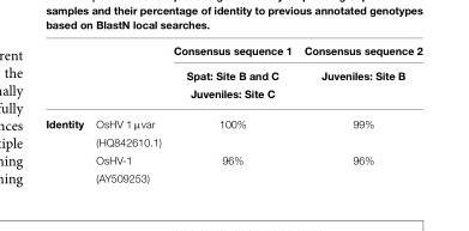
<table><thead><tr><td rowspan="3"></td><td rowspan="3"></td><td rowspan="3">Consensus sequence 1 Spat: Site B and C Juveniles: Site C</td><td rowspan="3">Consensus sequence 2 Juveniles: Site B</td></tr><tr></tr><tr></tr></thead><tbody><tr><td rowspan="4">Identity</td><td>OsHV 1 µvar</td><td>100%</td><td>99%</td></tr><tr><td>(HQ842610.1)</td><td></td><td></td></tr><tr><td>OsHV-1</td><td>96%</td><td>96%</td></tr><tr><td>(AY509253)</td><td></td><td></td></tr></tbody></table>